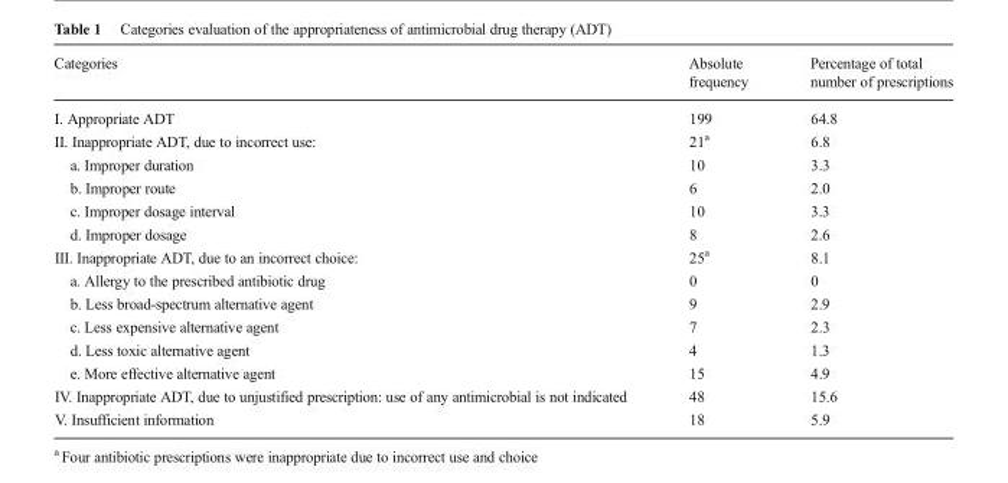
<table><thead><tr><td>Categories</td><td>Absolute frequency</td><td>Percentage of total number of prescriptions</td></tr></thead><tbody><tr><td>I. Appropriate ADT</td><td>199</td><td>64.8</td></tr><tr><td>II. Inappropriate ADT, due to incorrect use:</td><td>21<sup>a</sup></td><td>6.8</td></tr><tr><td>a. Improper duration</td><td>10</td><td>3.3</td></tr><tr><td>b. Improper route</td><td>6</td><td>2.0</td></tr><tr><td>c. Improper dosage interval</td><td>10</td><td>3.3</td></tr><tr><td>d. Improper dosage</td><td>8</td><td>2.6</td></tr><tr><td>III. Inappropriate ADT, due to an incorrect choice:</td><td>25<sup>a</sup></td><td>8.1</td></tr><tr><td>a. Allergy to the prescribed antibiotic drug</td><td>0</td><td>0</td></tr><tr><td>b. Less broad-spectrum alternative agent</td><td>9</td><td>2.9</td></tr><tr><td>c. Less expensive alternative agent</td><td>7</td><td>2.3</td></tr><tr><td>d. Less toxic alternative agent</td><td>4</td><td>1.3</td></tr><tr><td>e. More effective alternative agent</td><td>15</td><td>4.9</td></tr><tr><td>IV. Inappropriate ADT, due to unjustified prescription: use of any antimicrobial is not indicated</td><td>48</td><td>15.6</td></tr><tr><td>V. Insufficient information</td><td>18</td><td>5.9</td></tr></tbody></table>